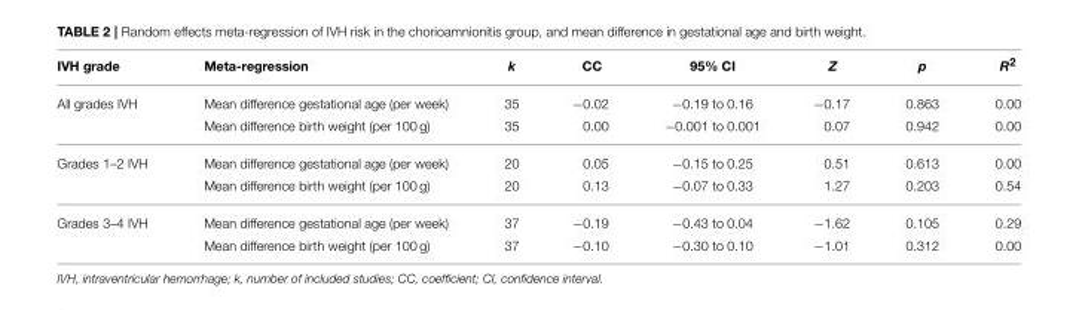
<table><thead><tr><td>IVH grade</td><td>Meta-regression</td><td>k</td><td>CC</td><td>95% CI</td><td>Z</td><td>p</td><td>R<sup>2</sup></td></tr></thead><tbody><tr><td rowspan="2">All grades IVH</td><td>Mean difference gestational age (per week)</td><td>35</td><td>−0.02</td><td>−0.19 to 0.16</td><td>−0.17</td><td>0.863</td><td>0.00</td></tr><tr><td>Mean difference birth weight (per 100 g)</td><td>35</td><td>0.00</td><td>−0.001 to 0.001</td><td>0.07</td><td>0.942</td><td>0.00</td></tr><tr><td rowspan="2">Grades 1–2 IVH</td><td>Mean difference gestational age (per week)</td><td>20</td><td>0.05</td><td>−0.15 to 0.25</td><td>0.51</td><td>0.613</td><td>0.00</td></tr><tr><td>Mean difference birth weight (per 100 g)</td><td>20</td><td>0.13</td><td>−0.07 to 0.33</td><td>1.27</td><td>0.203</td><td>0.54</td></tr><tr><td rowspan="2">Grades 3–4 IVH</td><td>Mean difference gestational age (per week)</td><td>37</td><td>−0.19</td><td>−0.43 to 0.04</td><td>−1.62</td><td>0.105</td><td>0.29</td></tr><tr><td>Mean difference birth weight (per 100 g)</td><td>37</td><td>−0.10</td><td>−0.30 to 0.10</td><td>−1.01</td><td>0.312</td><td>0.00</td></tr></tbody></table>